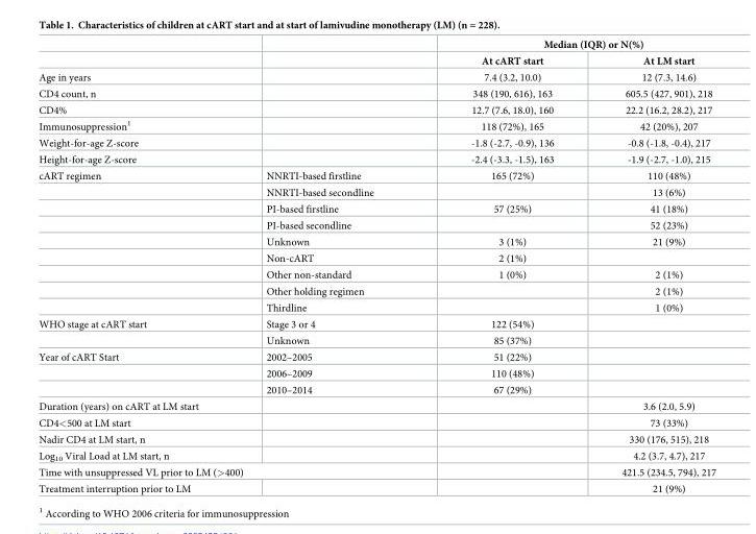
<table><thead><tr><td rowspan="2"></td><td rowspan="2"></td><td colspan="2">Median (IQR) or N(%)</td></tr><tr><td>At cART start</td><td>At LM start</td></tr></thead><tbody><tr><td>Age in years</td><td></td><td>7.4 (3.2, 10.0)</td><td>12 (7.3, 14.6)</td></tr><tr><td>CD4 count, n</td><td></td><td>348 (190, 616), 163</td><td>605.5 (427, 901), 218</td></tr><tr><td>CD4%</td><td></td><td>12.7 (7.6, 18.0), 160</td><td>22.2 (16.2, 28.2), 217</td></tr><tr><td>Immunosuppression<sup>1</sup></td><td></td><td>118 (72%), 165</td><td>42 (20%), 207</td></tr><tr><td>Weight-for-age Z-score</td><td></td><td>-1.8 (-2.7, -0.9), 136</td><td>-0.8 (-1.8, -0.4), 217</td></tr><tr><td>Height-for-age Z-score</td><td></td><td>-2.4 (-3.3, -1.5), 163</td><td>-1.9 (-2.7, -1.0), 215</td></tr><tr><td rowspan="9">cART regimen</td><td>NNRTI-based firstline</td><td>165 (72%)</td><td>110 (48%)</td></tr><tr><td>NNRTI-based secondline</td><td></td><td>13 (6%)</td></tr><tr><td>PI-based firstline</td><td>57 (25%)</td><td>41 (18%)</td></tr><tr><td>PI-based secondline</td><td></td><td>52 (23%)</td></tr><tr><td>Unknown</td><td>3 (1%)</td><td>21 (9%)</td></tr><tr><td>Non-cART</td><td>2 (1%)</td><td></td></tr><tr><td>Other non-standard</td><td>1 (0%)</td><td>2 (1%)</td></tr><tr><td>Other holding regimen</td><td></td><td>2 (1%)</td></tr><tr><td>Thirdline</td><td></td><td>1 (0%)</td></tr><tr><td rowspan="2">WHO stage at cART start</td><td>Stage 3 or 4</td><td>122 (54%)</td><td></td></tr><tr><td>Unknown</td><td>85 (37%)</td><td></td></tr><tr><td rowspan="3">Year of cART Start</td><td>2002–2005</td><td>51 (22%)</td><td></td></tr><tr><td>2006–2009</td><td>110 (48%)</td><td></td></tr><tr><td>2010–2014</td><td>67 (29%)</td><td></td></tr><tr><td>Duration (years) on cART at LM start</td><td></td><td></td><td>3.6 (2.0, 5.9)</td></tr><tr><td>CD4&lt;500 at LM start</td><td></td><td></td><td>73 (33%)</td></tr><tr><td>Nadir CD4 at LM start, n</td><td></td><td></td><td>330 (176, 515), 218</td></tr><tr><td>Log<sub>10</sub> Viral Load at LM start, n</td><td></td><td></td><td>4.2 (3.7, 4.7), 217</td></tr><tr><td colspan="2">Time with unsuppressed VL prior to LM (&gt;400)</td><td></td><td>421.5 (234.5, 794), 217</td></tr><tr><td>Treatment interruption prior to LM</td><td></td><td></td><td>21 (9%)</td></tr></tbody></table>